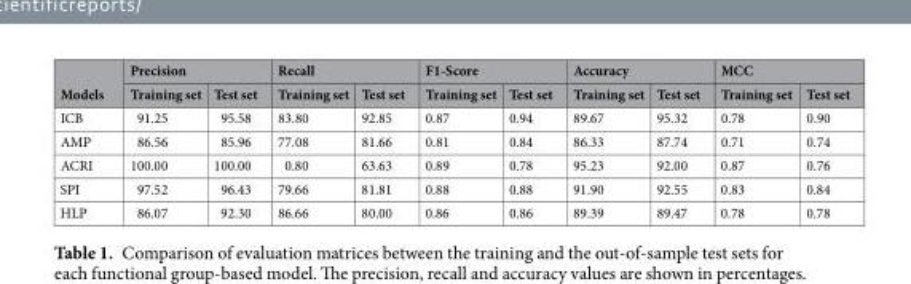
<table><thead><tr><td rowspan="2">Models</td><td colspan="2">Precision</td><td colspan="2">Recall</td><td colspan="2">F1-Score</td><td colspan="2">Accuracy</td><td colspan="2">MCC</td></tr><tr><td>Training set</td><td>Test set</td><td>Training set</td><td>Test set</td><td>Training set</td><td>Test set</td><td>Training set</td><td>Test set</td><td>Training set</td><td>Test set</td></tr></thead><tbody><tr><td>ICB</td><td>91.25</td><td>95.58</td><td>83.80</td><td>92.85</td><td>0.87</td><td>0.94</td><td>89.67</td><td>95.32</td><td>0.78</td><td>0.90</td></tr><tr><td>AMP</td><td>86.56</td><td>85.96</td><td>77.08</td><td>81.66</td><td>0.81</td><td>0.84</td><td>86.33</td><td>87.74</td><td>0.71</td><td>0.74</td></tr><tr><td>ACRI</td><td>100.00</td><td>100.00</td><td>0.80</td><td>63.63</td><td>0.89</td><td>0.78</td><td>95.23</td><td>92.00</td><td>0.87</td><td>0.76</td></tr><tr><td>SPI</td><td>97.52</td><td>96.43</td><td>79.66</td><td>81.81</td><td>0.88</td><td>0.88</td><td>91.90</td><td>92.55</td><td>0.83</td><td>0.84</td></tr><tr><td>HLP</td><td>86.07</td><td>92.30</td><td>86.66</td><td>80.00</td><td>0.86</td><td>0.86</td><td>89.39</td><td>89.47</td><td>0.78</td><td>0.78</td></tr></tbody></table>